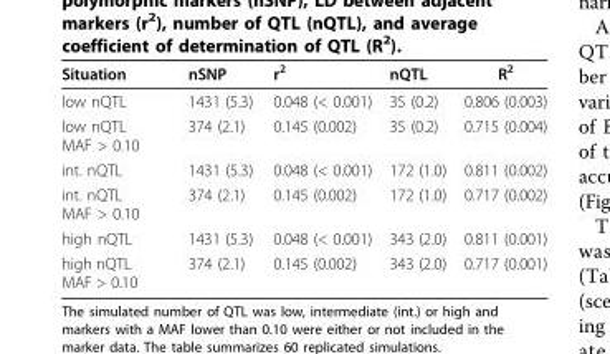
<table><thead><tr><td>Situation</td><td>nSNP</td><td>r<sup>2</sup></td><td>nQTL</td><td>R<sup>2</sup></td></tr></thead><tbody><tr><td>low nQTL</td><td>1431 (5.3)</td><td>0.048 (&lt; 0.001)</td><td>35 (0.2)</td><td>0.806 (0.003)</td></tr><tr><td>low nQTL MAF &gt; 0.10</td><td>374 (2.1)</td><td>0.145 (0.002)</td><td>35 (0.2)</td><td>0.715 (0.004)</td></tr><tr><td>int. nQTL</td><td>1431 (5.3)</td><td>0.048 (&lt; 0.001)</td><td>172 (1.0)</td><td>0.811 (0.002)</td></tr><tr><td>int. nQTL MAF &gt; 0.10</td><td>374 (2.1)</td><td>0.145 (0.002)</td><td>172 (1.0)</td><td>0.717 (0.002)</td></tr><tr><td>high nQTL</td><td>1431 (5.3)</td><td>0.048 (&lt; 0.001)</td><td>343 (2.0)</td><td>0.811 (0.001)</td></tr><tr><td>high nQTL MAF &gt; 0.10</td><td>374 (2.1)</td><td>0.145 (0.002)</td><td>343 (2.0)</td><td>0.717 (0.001)</td></tr></tbody></table>